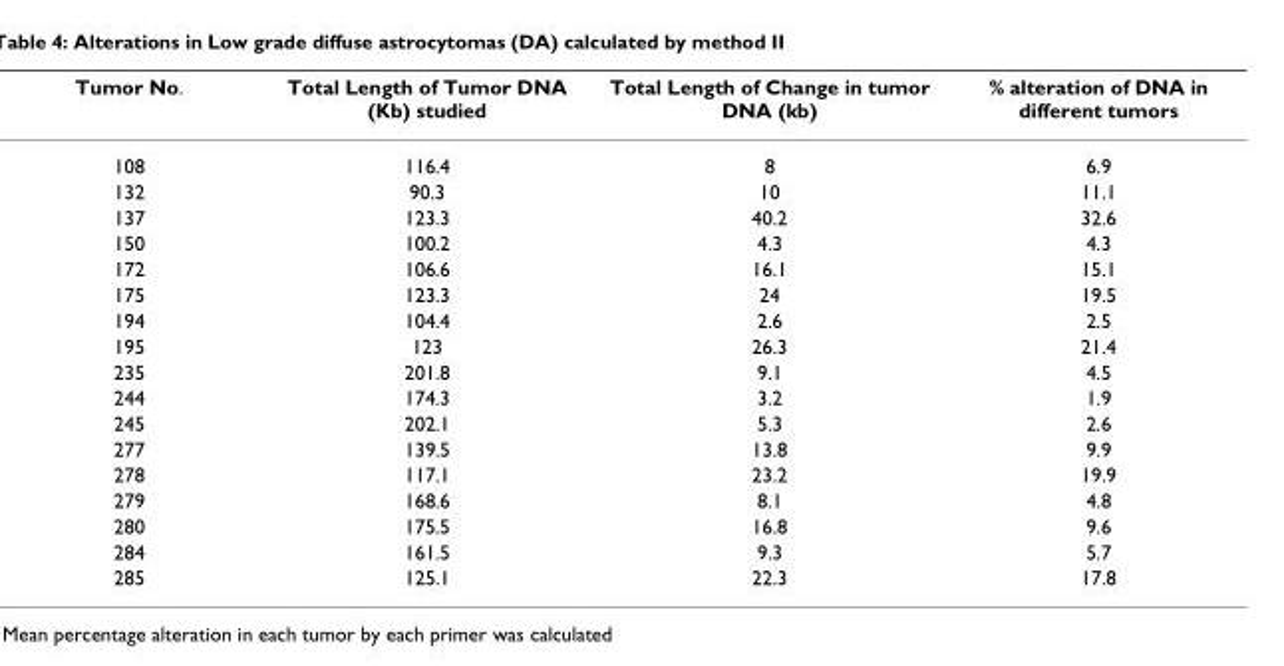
<table><thead><tr><td>Tumor No.</td><td>Total Length of Tumor DNA (Kb) studied</td><td>Total Length of Change in tumor DNA (kb)</td><td>% alteration of DNA in different tumors</td></tr></thead><tbody><tr><td>108</td><td>116.4</td><td>8</td><td>6.9</td></tr><tr><td>132</td><td>90.3</td><td>10</td><td>11.1</td></tr><tr><td>137</td><td>123.3</td><td>40.2</td><td>32.6</td></tr><tr><td>150</td><td>100.2</td><td>4.3</td><td>4.3</td></tr><tr><td>172</td><td>106.6</td><td>16.1</td><td>15.1</td></tr><tr><td>175</td><td>123.3</td><td>24</td><td>19.5</td></tr><tr><td>194</td><td>104.4</td><td>2.6</td><td>2.5</td></tr><tr><td>195</td><td>123</td><td>26.3</td><td>21.4</td></tr><tr><td>235</td><td>201.8</td><td>9.1</td><td>4.5</td></tr><tr><td>244</td><td>174.3</td><td>3.2</td><td>1.9</td></tr><tr><td>245</td><td>202.1</td><td>5.3</td><td>2.6</td></tr><tr><td>277</td><td>139.5</td><td>13.8</td><td>9.9</td></tr><tr><td>278</td><td>117.1</td><td>23.2</td><td>19.9</td></tr><tr><td>279</td><td>168.6</td><td>8.1</td><td>4.8</td></tr><tr><td>280</td><td>175.5</td><td>16.8</td><td>9.6</td></tr><tr><td>284</td><td>161.5</td><td>9.3</td><td>5.7</td></tr><tr><td>285</td><td>125.1</td><td>22.3</td><td>17.8</td></tr></tbody></table>